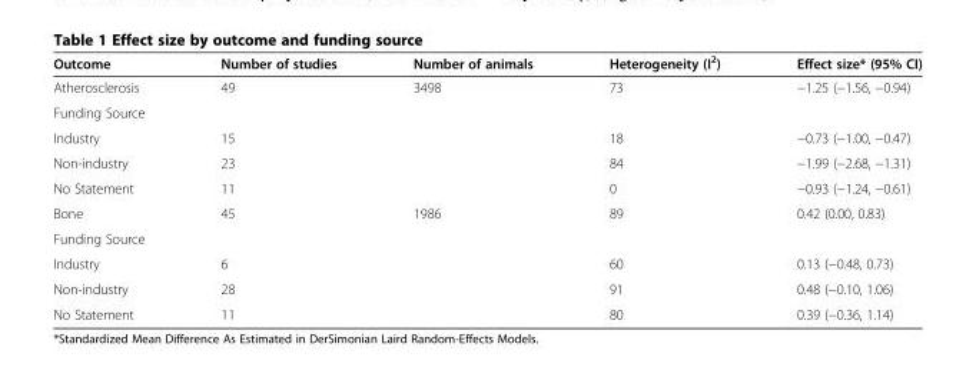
<table><thead><tr><td>Outcome</td><td>Number of studies</td><td>Number of animals</td><td>Heterogeneity (I<sup>2</sup>)</td><td>Effect size* (95% CI)</td></tr></thead><tbody><tr><td>Atherosclerosis</td><td>49</td><td>3498</td><td>73</td><td>−1.25 (−1.56, −0.94)</td></tr><tr><td colspan="5">Funding Source</td></tr><tr><td>Industry</td><td>15</td><td></td><td>18</td><td>−0.73 (−1.00, −0.47)</td></tr><tr><td>Non-industry</td><td>23</td><td></td><td>84</td><td>−1.99 (−2.68, −1.31)</td></tr><tr><td>No Statement</td><td>11</td><td></td><td>0</td><td>−0.93 (−1.24, −0.61)</td></tr><tr><td>Bone</td><td>45</td><td>1986</td><td>89</td><td>0.42 (0.00, 0.83)</td></tr><tr><td colspan="5">Funding Source</td></tr><tr><td>Industry</td><td>6</td><td></td><td>60</td><td>0.13 (−0.48, 0.73)</td></tr><tr><td>Non-industry</td><td>28</td><td></td><td>91</td><td>0.48 (−0.10, 1.06)</td></tr><tr><td>No Statement</td><td>11</td><td></td><td>80</td><td>0.39 (−0.36, 1.14)</td></tr></tbody></table>